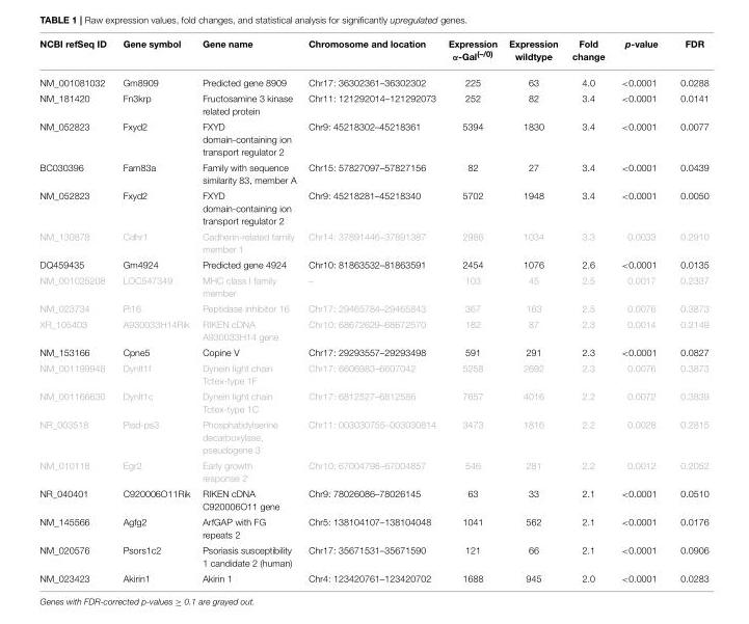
<table><thead><tr><td>NCBI refSeq ID</td><td>Gene symbol</td><td>Gene name</td><td>Chromosome and location</td><td>Expression α-Gal<sup>(–/0)</sup></td><td>Expression wildtype</td><td>Fold change</td><td>p-value</td><td>FDR</td></tr></thead><tbody><tr><td>NM_001081032</td><td>Gm8909</td><td>Predicted gene 8909</td><td>Chr17: 36302361–36302302</td><td>225</td><td>63</td><td>4.0</td><td>&lt;0.0001</td><td>0.0288</td></tr><tr><td>NM_181420</td><td>Fn3krp</td><td>Fructosamine 3 kinase related protein</td><td>Chr11: 121292014–121292073</td><td>252</td><td>82</td><td>3.4</td><td>&lt;0.0001</td><td>0.0141</td></tr><tr><td>NM_052823</td><td>Fxyd2</td><td>FXYD domain-containing ion transport regulator 2</td><td>Chr9: 45218302–45218361</td><td>5394</td><td>1830</td><td>3.4</td><td>&lt;0.0001</td><td>0.0077</td></tr><tr><td>BC030396</td><td>Fam83a</td><td>Family with sequence similarity 83, member A</td><td>Chr15: 57827097–57827156</td><td>82</td><td>27</td><td>3.4</td><td>&lt;0.0001</td><td>0.0439</td></tr><tr><td>NM_052823</td><td>Fxyd2</td><td>FXYD domain-containing ion transport regulator 2</td><td>Chr9: 45218281–45218340</td><td>5702</td><td>1948</td><td>3.4</td><td>&lt;0.0001</td><td>0.0050</td></tr><tr><td>NM_130878</td><td>Cdhr1</td><td>Cadherin-related family member 1</td><td>Chr14: 37891446–37891387</td><td>2986</td><td>1034</td><td>3.3</td><td>0.0033</td><td>0.2910</td></tr><tr><td>DQ459435</td><td>Gm4924</td><td>Predicted gene 4924</td><td>Chr10: 81863532–81863591</td><td>2454</td><td>1076</td><td>2.6</td><td>&lt;0.0001</td><td>0.0135</td></tr><tr><td>NM_001025208</td><td>LOC547349</td><td>MHC class I family member</td><td>–</td><td>103</td><td>45</td><td>2.5</td><td>0.0017</td><td>0.2337</td></tr><tr><td>NM_023734</td><td>Pi16</td><td>Peptidase inhibitor 16</td><td>Chr17: 29465784–29465843</td><td>367</td><td>163</td><td>2.5</td><td>0.0076</td><td>0.3873</td></tr><tr><td>XR_105403</td><td>A930033H14Rik</td><td>RIKEN cDNA A930033H14 gene</td><td>Chr10: 68672629–68672570</td><td>182</td><td>87</td><td>2.3</td><td>0.0014</td><td>0.2149</td></tr><tr><td>NM_153166</td><td>Cpne5</td><td>Copine V</td><td>Chr17: 29293557–29293498</td><td>591</td><td>291</td><td>2.3</td><td>&lt;0.0001</td><td>0.0827</td></tr><tr><td>NM_001199948</td><td>Dynlt1f</td><td>Dynein light chain Tctex-type 1F</td><td>Chr17: 6606983–6607042</td><td>5258</td><td>2692</td><td>2.3</td><td>0.0076</td><td>0.3873</td></tr><tr><td>NM_001166630</td><td>Dynlt1c</td><td>Dynein light chain Tctex-type 1C</td><td>Chr17: 6812527–6812586</td><td>7657</td><td>4016</td><td>2.2</td><td>0.0072</td><td>0.3839</td></tr><tr><td>NR_003518</td><td>Pisd-ps3</td><td>Phosphatidylserine decarboxylase, pseudogene 3</td><td>Chr11: 003030755–003030814</td><td>3473</td><td>1816</td><td>2.2</td><td>0.0028</td><td>0.2815</td></tr><tr><td>NM_010118</td><td>Egr2</td><td>Early growth response 2</td><td>Chr10: 67004798–67004857</td><td>546</td><td>281</td><td>2.2</td><td>0.0012</td><td>0.2052</td></tr><tr><td>NR_040401</td><td>C920006O11Rik</td><td>RIKEN cDNA C920006O11 gene</td><td>Chr9: 78026086–78026145</td><td>63</td><td>33</td><td>2.1</td><td>&lt;0.0001</td><td>0.0510</td></tr><tr><td>NM_145566</td><td>Agfg2</td><td>ArfGAP with FG repeats 2</td><td>Chr5: 138104107–138104048</td><td>1041</td><td>562</td><td>2.1</td><td>&lt;0.0001</td><td>0.0176</td></tr><tr><td>NM_020576</td><td>Psors1c2</td><td>Psoriasis susceptibility 1 candidate 2 (human)</td><td>Chr17: 35671531–35671590</td><td>121</td><td>66</td><td>2.1</td><td>&lt;0.0001</td><td>0.0906</td></tr><tr><td>NM_023423</td><td>Akirin1</td><td>Akirin 1</td><td>Chr4: 123420761–123420702</td><td>1688</td><td>945</td><td>2.0</td><td>&lt;0.0001</td><td>0.0283</td></tr></tbody></table>